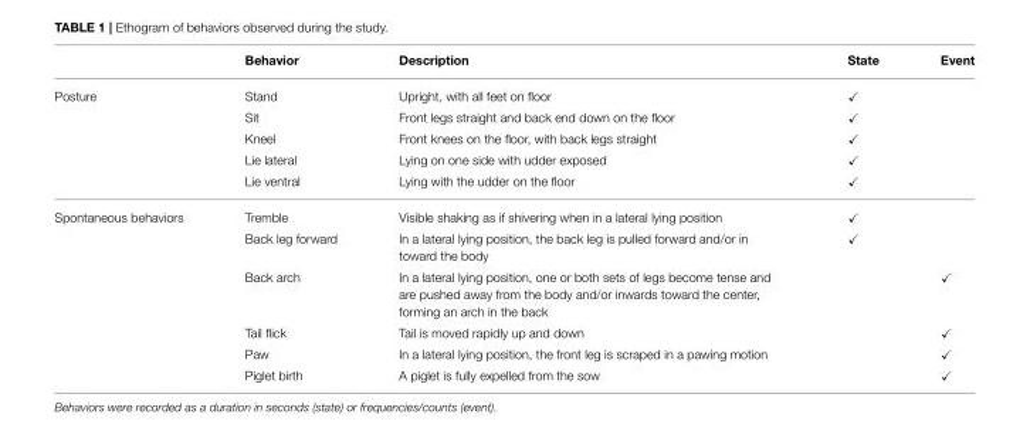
<table><thead><tr><td></td><td>Behavior</td><td>Description</td><td>State</td><td>Event</td></tr></thead><tbody><tr><td rowspan="5">Posture</td><td>Stand</td><td>Upright, with all feet on floor</td><td>✓</td><td></td></tr><tr><td>Sit</td><td>Front legs straight and back end down on the floor</td><td>✓</td><td></td></tr><tr><td>Kneel</td><td>Front knees on the floor, with back legs straight</td><td>✓</td><td></td></tr><tr><td>Lie lateral</td><td>Lying on one side with udder exposed</td><td>✓</td><td></td></tr><tr><td>Lie ventral</td><td>Lying with the udder on the floor</td><td>✓</td><td></td></tr><tr><td rowspan="6">Spontaneous behaviors</td><td>Tremble</td><td>Visible shaking as if shivering when in a lateral lying position</td><td>✓</td><td></td></tr><tr><td>Back leg forward</td><td>In a lateral lying position, the back leg is pulled forward and/or in toward the body</td><td>✓</td><td></td></tr><tr><td>Back arch</td><td>In a lateral lying position, one or both sets of legs become tense and are pushed away from the body and/or inwards toward the center, forming an arch in the back</td><td></td><td>✓</td></tr><tr><td>Tail flick</td><td>Tail is moved rapidly up and down</td><td></td><td>✓</td></tr><tr><td>Paw</td><td>In a lateral lying position, the front leg is scraped in a pawing motion</td><td></td><td>✓</td></tr><tr><td>Piglet birth</td><td>A piglet is fully expelled from the sow</td><td></td><td>✓</td></tr></tbody></table>